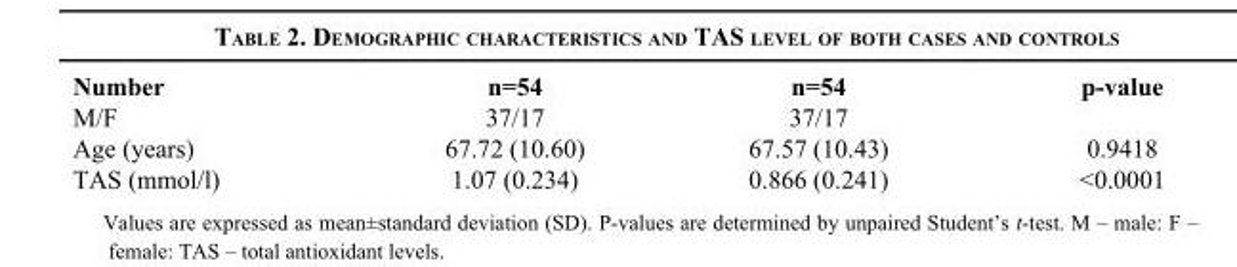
<table><thead><tr><td>Number</td><td>n=54</td><td>n=54</td><td>p-value</td></tr></thead><tbody><tr><td>M/F</td><td>37/17</td><td>37/17</td><td></td></tr><tr><td>Age (years)</td><td>67.72 (10.60)</td><td>67.57 (10.43)</td><td>0.9418</td></tr><tr><td>TAS (mmol/l)</td><td>1.07 (0.234)</td><td>0.866 (0.241)</td><td>&lt;0.0001</td></tr></tbody></table>